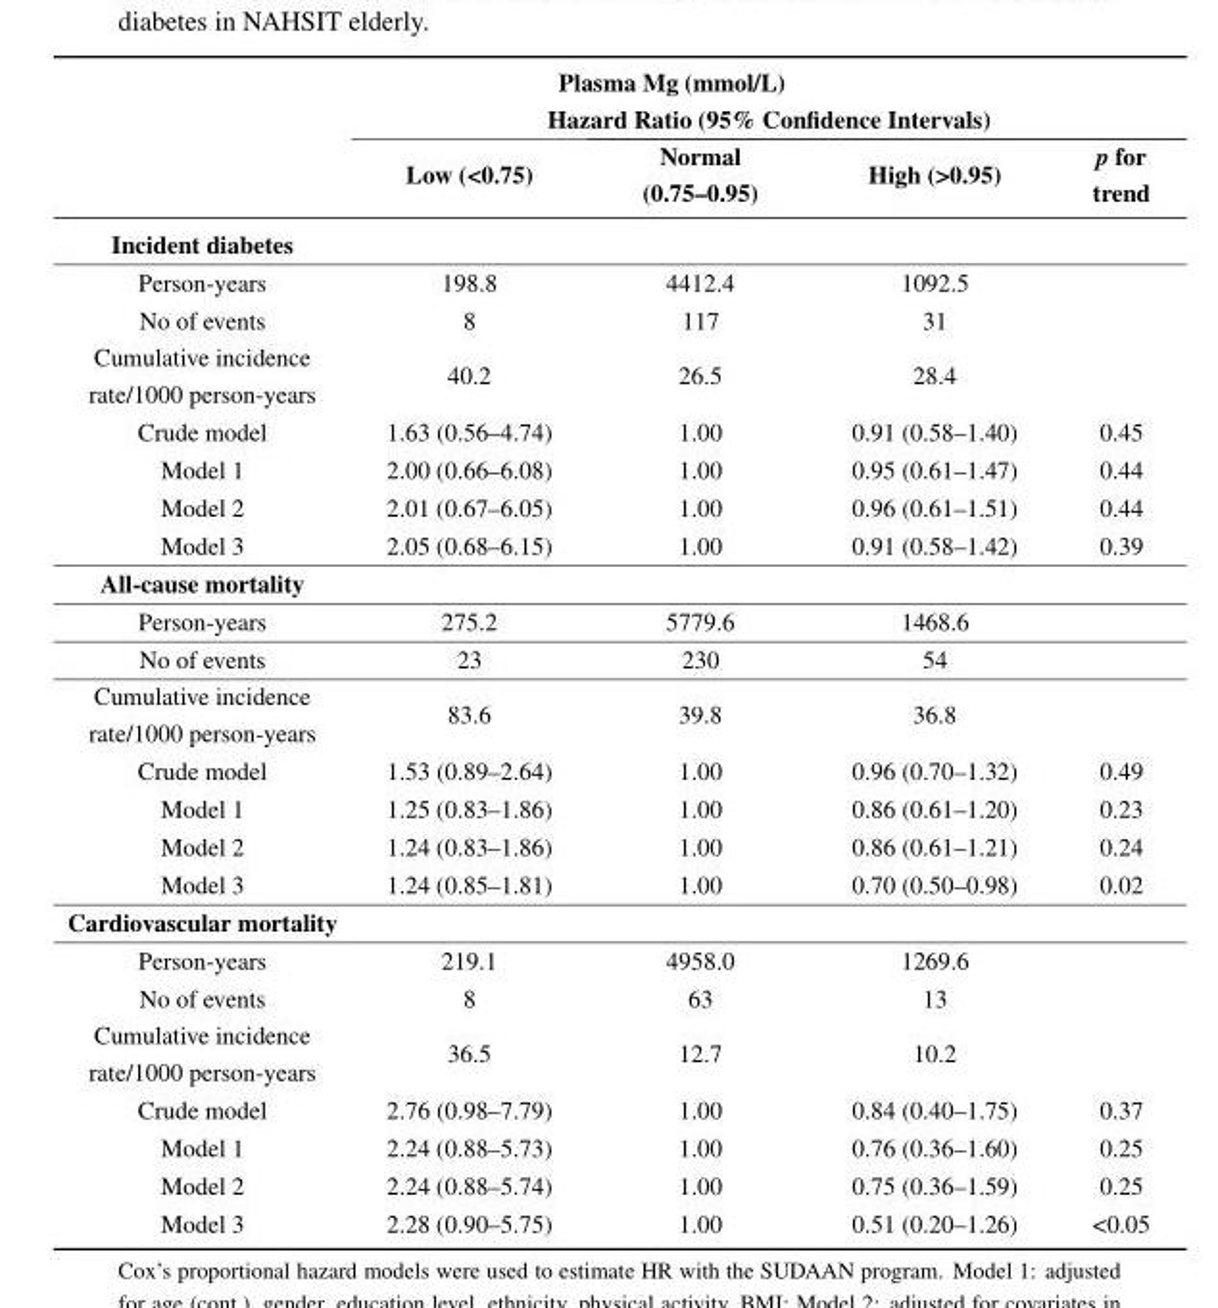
<table><thead><tr><td rowspan="2"></td><td colspan="4">Plasma Mg (mmol/L) Hazard Ratio (95% Confidence Intervals)</td></tr><tr><td>Low (&lt;0.75)</td><td>Normal (0.75–0.95)</td><td>High (&gt;0.95)</td><td>p for trend</td></tr></thead><tbody><tr><td colspan="5">Incident diabetes</td></tr><tr><td>Person-years</td><td>198.8</td><td>4412.4</td><td>1092.5</td><td></td></tr><tr><td>No of events</td><td>8</td><td>117</td><td>31</td><td></td></tr><tr><td>Cumulative incidence rate/1000 person-years</td><td>40.2</td><td>26.5</td><td>28.4</td><td></td></tr><tr><td>Crude model</td><td>1.63 (0.56–4.74)</td><td>1.00</td><td>0.91 (0.58–1.40)</td><td>0.45</td></tr><tr><td>Model 1</td><td>2.00 (0.66–6.08)</td><td>1.00</td><td>0.95 (0.61–1.47)</td><td>0.44</td></tr><tr><td>Model 2</td><td>2.01 (0.67–6.05)</td><td>1.00</td><td>0.96 (0.61–1.51)</td><td>0.44</td></tr><tr><td>Model 3</td><td>2.05 (0.68–6.15)</td><td>1.00</td><td>0.91 (0.58–1.42)</td><td>0.39</td></tr><tr><td colspan="5">All-cause mortality</td></tr><tr><td>Person-years</td><td>275.2</td><td>5779.6</td><td>1468.6</td><td></td></tr><tr><td>No of events</td><td>23</td><td>230</td><td>54</td><td></td></tr><tr><td>Cumulative incidence rate/1000 person-years</td><td>83.6</td><td>39.8</td><td>36.8</td><td></td></tr><tr><td>Crude model</td><td>1.53 (0.89–2.64)</td><td>1.00</td><td>0.96 (0.70–1.32)</td><td>0.49</td></tr><tr><td>Model 1</td><td>1.25 (0.83–1.86)</td><td>1.00</td><td>0.86 (0.61–1.20)</td><td>0.23</td></tr><tr><td>Model 2</td><td>1.24 (0.83–1.86)</td><td>1.00</td><td>0.86 (0.61–1.21)</td><td>0.24</td></tr><tr><td>Model 3</td><td>1.24 (0.85–1.81)</td><td>1.00</td><td>0.70 (0.50–0.98)</td><td>0.02</td></tr><tr><td colspan="5">Cardiovascular mortality</td></tr><tr><td>Person-years</td><td>219.1</td><td>4958.0</td><td>1269.6</td><td></td></tr><tr><td>No of events</td><td>8</td><td>63</td><td>13</td><td></td></tr><tr><td>Cumulative incidence rate/1000 person-years</td><td>36.5</td><td>12.7</td><td>10.2</td><td></td></tr><tr><td>Crude model</td><td>2.76 (0.98–7.79)</td><td>1.00</td><td>0.84 (0.40–1.75)</td><td>0.37</td></tr><tr><td>Model 1</td><td>2.24 (0.88–5.73)</td><td>1.00</td><td>0.76 (0.36–1.60)</td><td>0.25</td></tr><tr><td>Model 2</td><td>2.24 (0.88–5.74)</td><td>1.00</td><td>0.75 (0.36–1.59)</td><td>0.25</td></tr><tr><td>Model 3</td><td>2.28 (0.90–5.75)</td><td>1.00</td><td>0.51 (0.20–1.26)</td><td>&lt;0.05</td></tr></tbody></table>